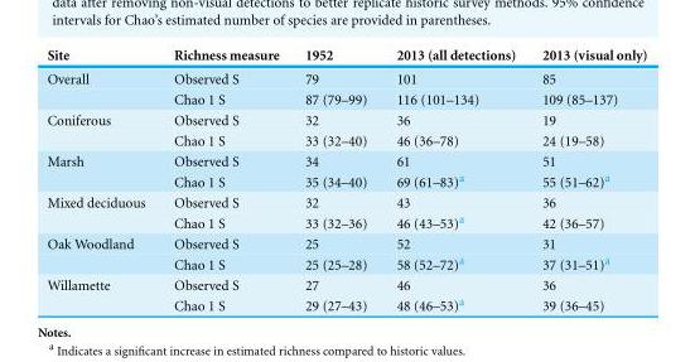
<table><thead><tr><td>Site</td><td>Richness measure</td><td>1952</td><td>2013 (all detections)</td><td>2013 (visual only)</td></tr></thead><tbody><tr><td rowspan="2">Overall</td><td>Observed S</td><td>79</td><td>101</td><td>85</td></tr><tr><td>Chao 1 S</td><td>87 (79–99)</td><td>116 (101–134)</td><td>109 (85–137)</td></tr><tr><td rowspan="2">Coniferous</td><td>Observed S</td><td>32</td><td>36</td><td>19</td></tr><tr><td>Chao 1 S</td><td>33 (32–40)</td><td>46 (36–78)</td><td>24 (19–58)</td></tr><tr><td rowspan="2">Marsh</td><td>Observed S</td><td>34</td><td>61</td><td>51</td></tr><tr><td>Chao 1 S</td><td>35 (34–40)</td><td>69 (61–83)<sup>a</sup></td><td>55 (51–62)<sup>a</sup></td></tr><tr><td rowspan="2">Mixed deciduous</td><td>Observed S</td><td>32</td><td>43</td><td>36</td></tr><tr><td>Chao 1 S</td><td>33 (32–36)</td><td>46 (43–53)<sup>a</sup></td><td>42 (36–57)</td></tr><tr><td rowspan="2">Oak Woodland</td><td>Observed S</td><td>25</td><td>52</td><td>31</td></tr><tr><td>Chao 1 S</td><td>25 (25–28)</td><td>58 (52–72)<sup>a</sup></td><td>37 (31–51)<sup>a</sup></td></tr><tr><td rowspan="2">Willamette</td><td>Observed S</td><td>27</td><td>46</td><td>36</td></tr><tr><td>Chao 1 S</td><td>29 (27–43)</td><td>48 (46–53)<sup>a</sup></td><td>39 (36–45)</td></tr></tbody></table>